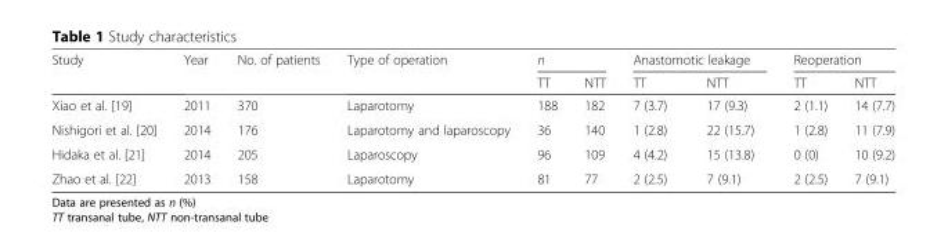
<table><thead><tr><td rowspan="2">Study</td><td rowspan="2">Year</td><td rowspan="2">No. of patients</td><td rowspan="2">Type of operation</td><td colspan="2">n</td><td colspan="2">Anastomotic leakage</td><td colspan="2">Reoperation</td></tr><tr><td>TT</td><td>NTT</td><td>TT</td><td>NTT</td><td>TT</td><td>NTT</td></tr></thead><tbody><tr><td>Xiao et al. [19]</td><td>2011</td><td>370</td><td>Laparotomy</td><td>188</td><td>182</td><td>7 (3.7)</td><td>17 (9.3)</td><td>2 (1.1)</td><td>14 (7.7)</td></tr><tr><td>Nishigori et al. [20]</td><td>2014</td><td>176</td><td>Laparotomy and laparoscopy</td><td>36</td><td>140</td><td>1 (2.8)</td><td>22 (15.7)</td><td>1 (2.8)</td><td>11 (7.9)</td></tr><tr><td>Hidaka et al. [21]</td><td>2014</td><td>205</td><td>Laparoscopy</td><td>96</td><td>109</td><td>4 (4.2)</td><td>15 (13.8)</td><td>0 (0)</td><td>10 (9.2)</td></tr><tr><td>Zhao et al. [22]</td><td>2013</td><td>158</td><td>Laparotomy</td><td>81</td><td>77</td><td>2 (2.5)</td><td>7 (9.1)</td><td>2 (2.5)</td><td>7 (9.1)</td></tr></tbody></table>